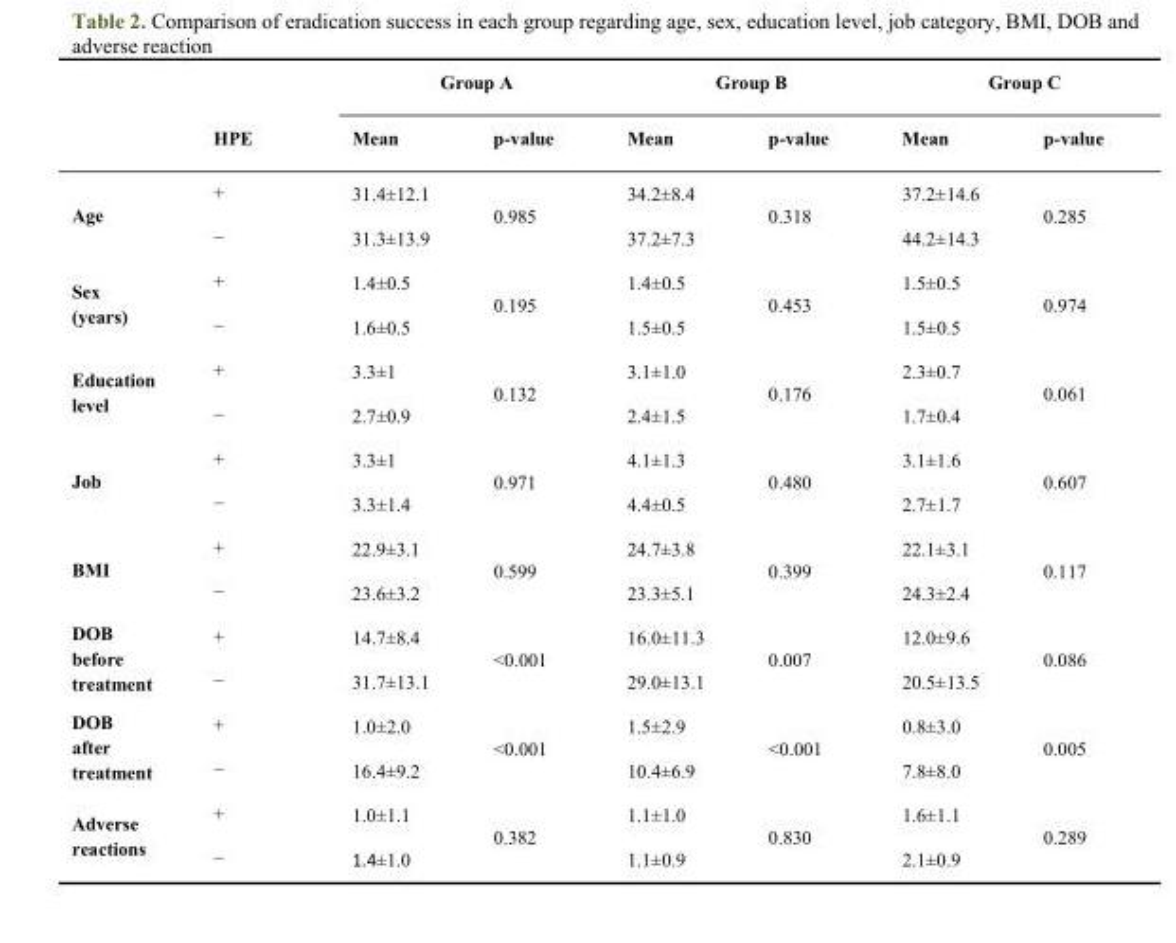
<table><thead><tr><td rowspan="2"></td><td rowspan="2">HPE</td><td colspan="2">Group A</td><td colspan="2">Group B</td><td colspan="2">Group C</td></tr><tr><td>Mean</td><td>p-value</td><td>Mean</td><td>p-value</td><td>Mean</td><td>p-value</td></tr></thead><tbody><tr><td rowspan="2">Age</td><td>+</td><td>31.4±12.1</td><td rowspan="2">0.985</td><td>34.2±8.4</td><td rowspan="2">0.318</td><td>37.2±14.6</td><td rowspan="2">0.285</td></tr><tr><td>−</td><td>31.3±13.9</td><td>37.2±7.3</td><td>44.2±14.3</td></tr><tr><td rowspan="2">Sex (years)</td><td>+</td><td>1.4±0.5</td><td rowspan="2">0.195</td><td>1.4±0.5</td><td rowspan="2">0.453</td><td>1.5±0.5</td><td rowspan="2">0.974</td></tr><tr><td>−</td><td>1.6±0.5</td><td>1.5±0.5</td><td>1.5±0.5</td></tr><tr><td rowspan="2">Education level</td><td>+</td><td>3.3±1</td><td rowspan="2">0.132</td><td>3.1±1.0</td><td rowspan="2">0.176</td><td>2.3±0.7</td><td rowspan="2">0.061</td></tr><tr><td>−</td><td>2.7±0.9</td><td>2.4±1.5</td><td>1.7±0.4</td></tr><tr><td rowspan="2">Job</td><td>+</td><td>3.3±1</td><td rowspan="2">0.971</td><td>4.1±1.3</td><td rowspan="2">0.480</td><td>3.1±1.6</td><td rowspan="2">0.607</td></tr><tr><td>−</td><td>3.3±1.4</td><td>4.4±0.5</td><td>2.7±1.7</td></tr><tr><td rowspan="2">BMI</td><td>+</td><td>22.9±3.1</td><td rowspan="2">0.599</td><td>24.7±3.8</td><td rowspan="2">0.399</td><td>22.1±3.1</td><td rowspan="2">0.117</td></tr><tr><td>−</td><td>23.6±3.2</td><td>23.3±5.1</td><td>24.3±2.4</td></tr><tr><td rowspan="2">DOB before treatment</td><td>+</td><td>14.7±8.4</td><td rowspan="2">&lt;0.001</td><td>16.0±11.3</td><td rowspan="2">0.007</td><td>12.0±9.6</td><td rowspan="2">0.086</td></tr><tr><td>−</td><td>31.7±13.1</td><td>29.0±13.1</td><td>20.5±13.5</td></tr><tr><td rowspan="2">DOB after treatment</td><td>+</td><td>1.0±2.0</td><td rowspan="2">&lt;0.001</td><td>1.5±2.9</td><td rowspan="2">&lt;0.001</td><td>0.8±3.0</td><td rowspan="2">0.005</td></tr><tr><td>−</td><td>16.4±9.2</td><td>10.4±6.9</td><td>7.8±8.0</td></tr><tr><td rowspan="2">Adverse reactions</td><td>+</td><td>1.0±1.1</td><td rowspan="2">0.382</td><td>1.1±1.0</td><td rowspan="2">0.830</td><td>1.6±1.1</td><td rowspan="2">0.289</td></tr><tr><td>−</td><td>1.4±1.0</td><td>1.1±0.9</td><td>2.1±0.9</td></tr></tbody></table>